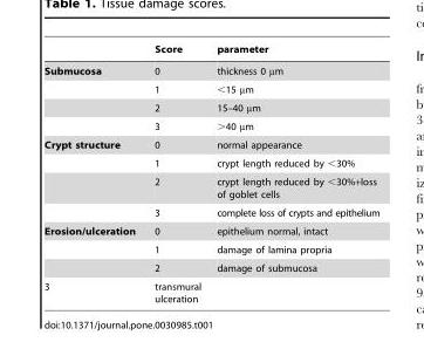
<table><thead><tr><td></td><td>Score</td><td>parameter</td></tr></thead><tbody><tr><td rowspan="4">Submucosa</td><td>0</td><td>thickness 0 µm</td></tr><tr><td>1</td><td>&lt;15 µm</td></tr><tr><td>2</td><td>15–40 µm</td></tr><tr><td>3</td><td>&gt;40 µm</td></tr><tr><td rowspan="4">Crypt structure</td><td>0</td><td>normal appearance</td></tr><tr><td>1</td><td>crypt length reduced by &lt;30%</td></tr><tr><td>2</td><td>crypt length reduced by &lt;30%+loss of goblet cells</td></tr><tr><td>3</td><td>complete loss of crypts and epithelium</td></tr><tr><td rowspan="3">Erosion/ulceration</td><td>0</td><td>epithelium normal, intact</td></tr><tr><td>1</td><td>damage of lamina propria</td></tr><tr><td>2</td><td>damage of submucosa</td></tr><tr><td>3</td><td>transmural ulceration</td><td></td></tr></tbody></table>